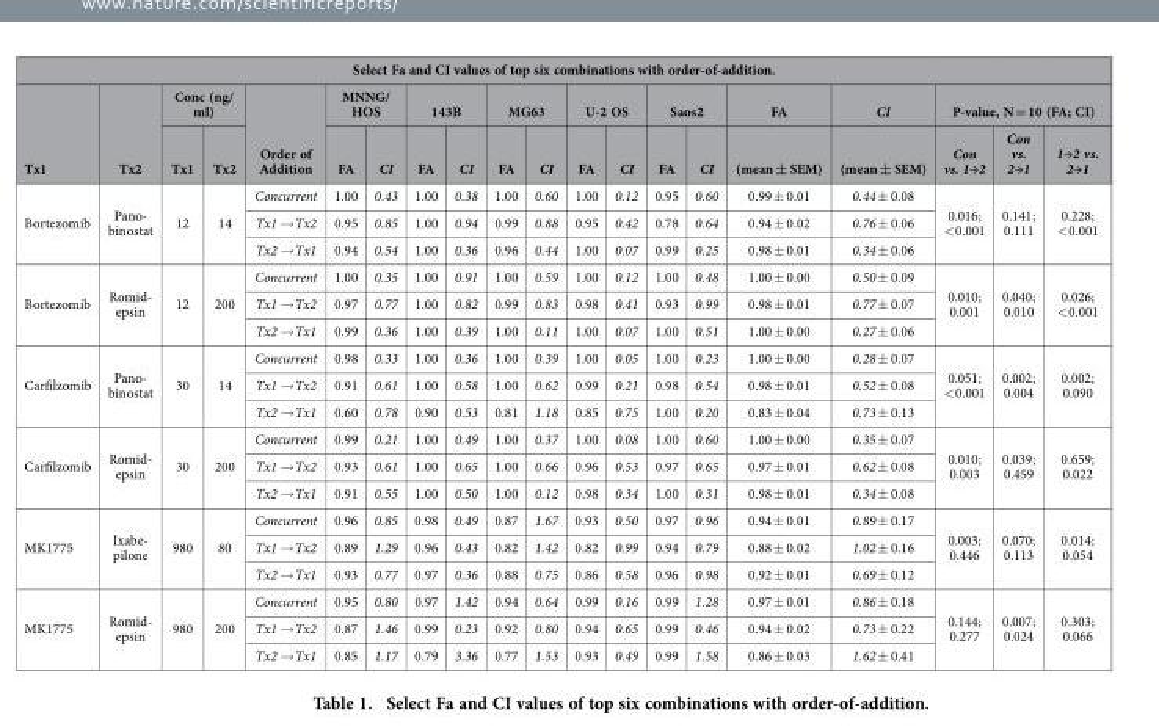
<table><thead><tr><td colspan="20">Select Fa and CI values of top six combinations with order-of-addition.</td></tr><tr><td rowspan="2">Tx1</td><td rowspan="2">Tx2</td><td colspan="2">Conc (ng/ ml)</td><td rowspan="2">Order of Addition</td><td colspan="2">MNNG/ HOS</td><td colspan="2">143B</td><td colspan="2">MG63</td><td colspan="2">U-2 OS</td><td colspan="2">Saos2</td><td rowspan="2">FA (mean ± SEM)</td><td rowspan="2">CI (mean ± SEM)</td><td colspan="3">P-value, N = 10 (FA; CI)</td></tr><tr><td>Tx1</td><td>Tx2</td><td>FA</td><td>CI</td><td>FA</td><td>CI</td><td>FA</td><td>CI</td><td>FA</td><td>CI</td><td>FA</td><td>CI</td><td>Con vs. 1→2</td><td>Con vs. 2→1</td><td>1→2 vs. 2→1</td></tr></thead><tbody><tr><td rowspan="3">Bortezomib</td><td rowspan="3">Pano- binostat</td><td rowspan="3">12</td><td rowspan="3">14</td><td>Concurrent</td><td>1.00</td><td>0.43</td><td>1.00</td><td>0.38</td><td>1.00</td><td>0.60</td><td>1.00</td><td>0.12</td><td>0.95</td><td>0.60</td><td>0.99 ± 0.01</td><td>0.44 ± 0.08</td><td rowspan="3">0.016; &lt; 0.001</td><td rowspan="3">0.141; 0.111</td><td rowspan="3">0.228; &lt; 0.001</td></tr><tr><td>Tx1 → Tx2</td><td>0.95</td><td>0.85</td><td>1.00</td><td>0.94</td><td>0.99</td><td>0.88</td><td>0.95</td><td>0.42</td><td>0.78</td><td>0.64</td><td>0.94 ± 0.02</td><td>0.76 ± 0.06</td></tr><tr><td>Tx2 → Tx1</td><td>0.94</td><td>0.54</td><td>1.00</td><td>0.36</td><td>0.96</td><td>0.44</td><td>1.00</td><td>0.07</td><td>0.99</td><td>0.25</td><td>0.98 ± 0.01</td><td>0.34 ± 0.06</td></tr><tr><td rowspan="3">Bortezomib</td><td rowspan="3">Romid- epsin</td><td rowspan="3">12</td><td rowspan="3">200</td><td>Concurrent</td><td>1.00</td><td>0.35</td><td>1.00</td><td>0.91</td><td>1.00</td><td>0.59</td><td>1.00</td><td>0.12</td><td>1.00</td><td>0.48</td><td>1.00 ± 0.00</td><td>0.50 ± 0.09</td><td rowspan="3">0.010; 0.001</td><td rowspan="3">0.040; 0.010</td><td rowspan="3">0.026; &lt; 0.001</td></tr><tr><td>Tx1 → Tx2</td><td>0.97</td><td>0.77</td><td>1.00</td><td>0.82</td><td>0.99</td><td>0.83</td><td>0.98</td><td>0.41</td><td>0.93</td><td>0.99</td><td>0.98 ± 0.01</td><td>0.77 ± 0.07</td></tr><tr><td>Tx2 → Tx1</td><td>0.99</td><td>0.36</td><td>1.00</td><td>0.39</td><td>1.00</td><td>0.11</td><td>1.00</td><td>0.07</td><td>1.00</td><td>0.51</td><td>1.00 ± 0.00</td><td>0.27 ± 0.06</td></tr><tr><td rowspan="3">Carfilzomib</td><td rowspan="3">Pano- binostat</td><td rowspan="3">30</td><td rowspan="3">14</td><td>Concurrent</td><td>0.98</td><td>0.33</td><td>1.00</td><td>0.36</td><td>1.00</td><td>0.39</td><td>1.00</td><td>0.05</td><td>1.00</td><td>0.23</td><td>1.00 ± 0.00</td><td>0.28 ± 0.07</td><td rowspan="3">0.051; &lt; 0.001</td><td rowspan="3">0.002; 0.004</td><td rowspan="3">0.002; 0.090</td></tr><tr><td>Tx1 → Tx2</td><td>0.91</td><td>0.61</td><td>1.00</td><td>0.58</td><td>1.00</td><td>0.62</td><td>0.99</td><td>0.21</td><td>0.98</td><td>0.54</td><td>0.98 ± 0.01</td><td>0.52 ± 0.08</td></tr><tr><td>Tx2 → Tx1</td><td>0.60</td><td>0.78</td><td>0.90</td><td>0.53</td><td>0.81</td><td>1.18</td><td>0.85</td><td>0.75</td><td>1.00</td><td>0.20</td><td>0.83 ± 0.04</td><td>0.73 ± 0.13</td></tr><tr><td rowspan="3">Carfilzomib</td><td rowspan="3">Romid- epsin</td><td rowspan="3">30</td><td rowspan="3">200</td><td>Concurrent</td><td>0.99</td><td>0.21</td><td>1.00</td><td>0.49</td><td>1.00</td><td>0.37</td><td>1.00</td><td>0.08</td><td>1.00</td><td>0.60</td><td>1.00 ± 0.00</td><td>0.35 ± 0.07</td><td rowspan="3">0.010; 0.003</td><td rowspan="3">0.039; 0.459</td><td rowspan="3">0.659; 0.022</td></tr><tr><td>Tx1 → Tx2</td><td>0.93</td><td>0.61</td><td>1.00</td><td>0.65</td><td>1.00</td><td>0.66</td><td>0.96</td><td>0.53</td><td>0.97</td><td>0.65</td><td>0.97 ± 0.01</td><td>0.62 ± 0.08</td></tr><tr><td>Tx2 → Tx1</td><td>0.91</td><td>0.55</td><td>1.00</td><td>0.50</td><td>1.00</td><td>0.12</td><td>0.98</td><td>0.34</td><td>1.00</td><td>0.31</td><td>0.98 ± 0.01</td><td>0.34 ± 0.08</td></tr><tr><td rowspan="3">MK1775</td><td rowspan="3">Ixabe- pilone</td><td rowspan="3">980</td><td rowspan="3">80</td><td>Concurrent</td><td>0.96</td><td>0.85</td><td>0.98</td><td>0.49</td><td>0.87</td><td>1.67</td><td>0.93</td><td>0.50</td><td>0.97</td><td>0.96</td><td>0.94 ± 0.01</td><td>0.89 ± 0.17</td><td rowspan="3">0.003; 0.446</td><td rowspan="3">0.070; 0.113</td><td rowspan="3">0.014; 0.054</td></tr><tr><td>Tx1 → Tx2</td><td>0.89</td><td>1.29</td><td>0.96</td><td>0.43</td><td>0.82</td><td>1.42</td><td>0.82</td><td>0.99</td><td>0.94</td><td>0.79</td><td>0.88 ± 0.02</td><td>1.02 ± 0.16</td></tr><tr><td>Tx2 → Tx1</td><td>0.93</td><td>0.77</td><td>0.97</td><td>0.36</td><td>0.88</td><td>0.75</td><td>0.86</td><td>0.58</td><td>0.96</td><td>0.98</td><td>0.92 ± 0.01</td><td>0.69 ± 0.12</td></tr><tr><td rowspan="3">MK1775</td><td rowspan="3">Romid- epsin</td><td rowspan="3">980</td><td rowspan="3">200</td><td>Concurrent</td><td>0.95</td><td>0.80</td><td>0.97</td><td>1.42</td><td>0.94</td><td>0.64</td><td>0.99</td><td>0.16</td><td>0.99</td><td>1.28</td><td>0.97 ± 0.01</td><td>0.86 ± 0.18</td><td rowspan="3">0.144; 0.277</td><td rowspan="3">0.007; 0.024</td><td rowspan="3">0.303; 0.066</td></tr><tr><td>Tx1 → Tx2</td><td>0.87</td><td>1.46</td><td>0.99</td><td>0.23</td><td>0.92</td><td>0.80</td><td>0.94</td><td>0.65</td><td>0.99</td><td>0.46</td><td>0.94 ± 0.02</td><td>0.73 ± 0.22</td></tr><tr><td>Tx2 → Tx1</td><td>0.85</td><td>1.17</td><td>0.79</td><td>3.36</td><td>0.77</td><td>1.53</td><td>0.93</td><td>0.49</td><td>0.99</td><td>1.58</td><td>0.86 ± 0.03</td><td>1.62 ± 0.41</td></tr></tbody></table>